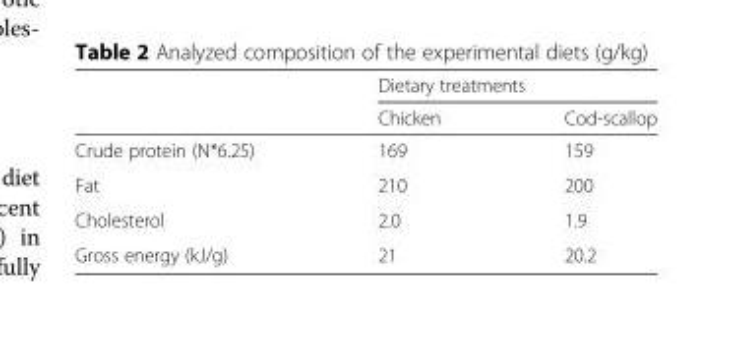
<table><thead><tr><td rowspan="2"></td><td colspan="2">Dietary treatments</td></tr><tr><td>Chicken</td><td>Cod-scallop</td></tr></thead><tbody><tr><td>Crude protein (N*6.25)</td><td>169</td><td>159</td></tr><tr><td>Fat</td><td>210</td><td>200</td></tr><tr><td>Cholesterol</td><td>2.0</td><td>1.9</td></tr><tr><td>Gross energy (kJ/g)</td><td>21</td><td>20.2</td></tr></tbody></table>